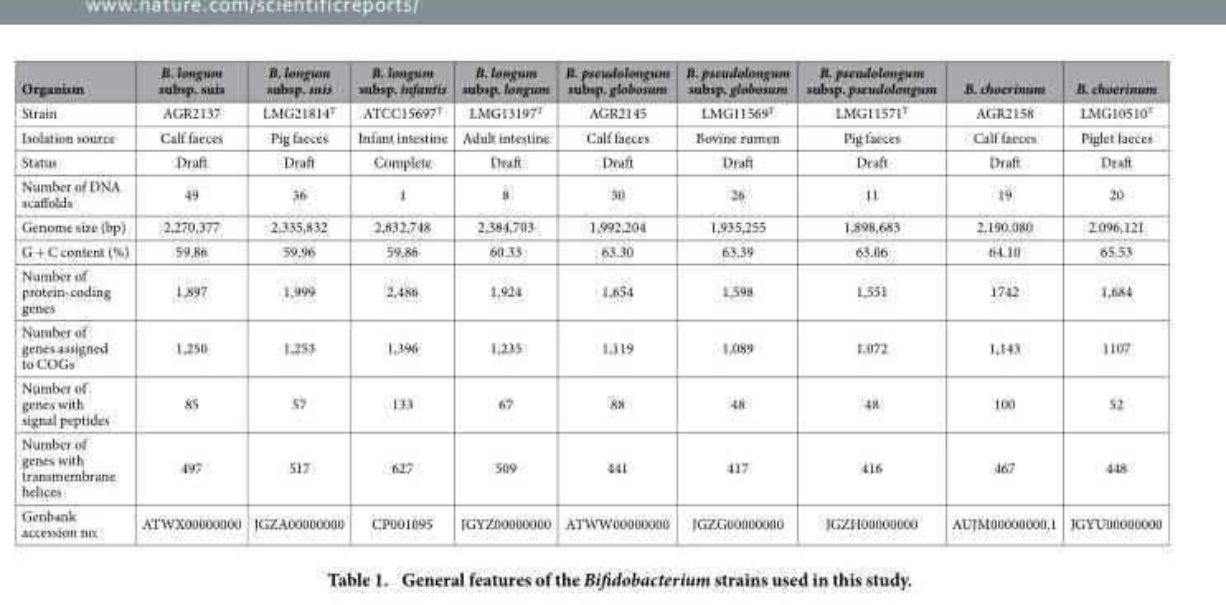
<table><thead><tr><td>Organism</td><td>B. longum subsp. suis</td><td>B. longum subsp. suis</td><td>B. longum subsp. infantis</td><td>B. longum subsp. longum</td><td>B. pseudolongum subsp. globosum</td><td>B. pseudolongum subsp. globosum</td><td>B. pseudolongum subsp. pseudolongum</td><td>B. choerinum</td><td>B. choerinum</td></tr></thead><tbody><tr><td>Strain</td><td>AGR2137</td><td>LMG21814<sup>T</sup></td><td>ATCC15697<sup>T</sup></td><td>LMG13197<sup>T</sup></td><td>AGR2145</td><td>LMG11569<sup>T</sup></td><td>LMG11571<sup>T</sup></td><td>AGR2158</td><td>LMG10510<sup>T</sup></td></tr><tr><td>Isolation source</td><td>Calf faeces</td><td>Pig faeces</td><td>Infant intestine</td><td>Adult intestine</td><td>Calf faeces</td><td>Bovine rumen</td><td>Pig faeces</td><td>Calf faeces</td><td>Piglet faeces</td></tr><tr><td>Status</td><td>Draft</td><td>Draft</td><td>Complete</td><td>Draft</td><td>Draft</td><td>Draft</td><td>Draft</td><td>Draft</td><td>Draft</td></tr><tr><td>Number of DNA scaffolds</td><td>49</td><td>36</td><td>1</td><td>8</td><td>30</td><td>26</td><td>11</td><td>19</td><td>20</td></tr><tr><td>Genome size (bp)</td><td>2,270,377</td><td>2,335,832</td><td>2,832,748</td><td>2,384,703</td><td>1,992,204</td><td>1,935,255</td><td>1,898,683</td><td>2,190,080</td><td>2.096,121</td></tr><tr><td>G + C content (%)</td><td>59.86</td><td>59.96</td><td>59.86</td><td>60.33</td><td>63.30</td><td>63.39</td><td>63.06</td><td>64.10</td><td>65.53</td></tr><tr><td>Number of protein-coding genes</td><td>1,897</td><td>1,999</td><td>2,486</td><td>1,924</td><td>1,654</td><td>1,598</td><td>1,551</td><td>1742</td><td>1,684</td></tr><tr><td>Number of genes assigned to COGs</td><td>1,250</td><td>1,253</td><td>1,396</td><td>1,235</td><td>1,119</td><td>1,089</td><td>1,072</td><td>1,143</td><td>1107</td></tr><tr><td>Number of genes with signal peptides</td><td>85</td><td>57</td><td>133</td><td>67</td><td>88</td><td>48</td><td>48</td><td>100</td><td>52</td></tr><tr><td>Number of genes with transmembrane helices</td><td>497</td><td>517</td><td>627</td><td>509</td><td>441</td><td>417</td><td>416</td><td>467</td><td>448</td></tr><tr><td>Genbank accession no.</td><td>ATWX00000000</td><td>JGZA00000000</td><td>CP001095</td><td>JGYZ00000000</td><td>ATWW00000000</td><td>JGZG00000000</td><td>JGZH00000000</td><td>AUJM00000000.1</td><td>JGYU00000000</td></tr></tbody></table>